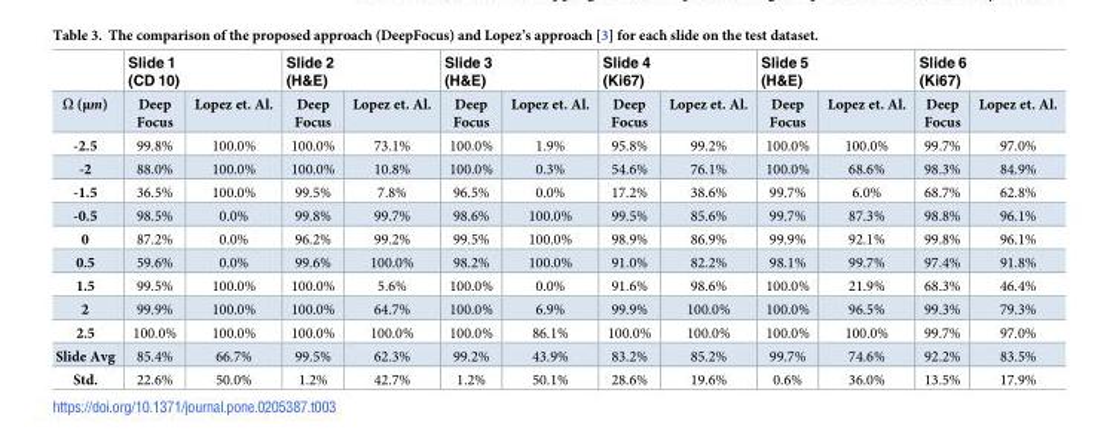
<table><thead><tr><td rowspan="2">Ω (μm)</td><td colspan="2">Slide 1 (CD 10)</td><td colspan="2">Slide 2 (H&amp;E)</td><td colspan="2">Slide 3 (H&amp;E)</td><td colspan="2">Slide 4 (Ki67)</td><td colspan="2">Slide 5 (H&amp;E)</td><td colspan="2">Slide 6 (Ki67)</td></tr><tr><td>Deep Focus</td><td>Lopez et. Al.</td><td>Deep Focus</td><td>Lopez et. Al.</td><td>Deep Focus</td><td>Lopez et. Al.</td><td>Deep Focus</td><td>Lopez et. Al.</td><td>Deep Focus</td><td>Lopez et. Al.</td><td>Deep Focus</td><td>Lopez et. Al.</td></tr></thead><tbody><tr><td>-2.5</td><td>99.8%</td><td>100.0%</td><td>100.0%</td><td>73.1%</td><td>100.0%</td><td>1.9%</td><td>95.8%</td><td>99.2%</td><td>100.0%</td><td>100.0%</td><td>99.7%</td><td>97.0%</td></tr><tr><td>-2</td><td>88.0%</td><td>100.0%</td><td>100.0%</td><td>10.8%</td><td>100.0%</td><td>0.3%</td><td>54.6%</td><td>76.1%</td><td>100.0%</td><td>68.6%</td><td>98.3%</td><td>84.9%</td></tr><tr><td>-1.5</td><td>36.5%</td><td>100.0%</td><td>99.5%</td><td>7.8%</td><td>96.5%</td><td>0.0%</td><td>17.2%</td><td>38.6%</td><td>99.7%</td><td>6.0%</td><td>68.7%</td><td>62.8%</td></tr><tr><td>-0.5</td><td>98.5%</td><td>0.0%</td><td>99.8%</td><td>99.7%</td><td>98.6%</td><td>100.0%</td><td>99.5%</td><td>85.6%</td><td>99.7%</td><td>87.3%</td><td>98.8%</td><td>96.1%</td></tr><tr><td>0</td><td>87.2%</td><td>0.0%</td><td>96.2%</td><td>99.2%</td><td>99.5%</td><td>100.0%</td><td>98.9%</td><td>86.9%</td><td>99.9%</td><td>92.1%</td><td>99.8%</td><td>96.1%</td></tr><tr><td>0.5</td><td>59.6%</td><td>0.0%</td><td>99.6%</td><td>100.0%</td><td>98.2%</td><td>100.0%</td><td>91.0%</td><td>82.2%</td><td>98.1%</td><td>99.7%</td><td>97.4%</td><td>91.8%</td></tr><tr><td>1.5</td><td>99.5%</td><td>100.0%</td><td>100.0%</td><td>5.6%</td><td>100.0%</td><td>0.0%</td><td>91.6%</td><td>98.6%</td><td>100.0%</td><td>21.9%</td><td>68.3%</td><td>46.4%</td></tr><tr><td>2</td><td>99.9%</td><td>100.0%</td><td>100.0%</td><td>64.7%</td><td>100.0%</td><td>6.9%</td><td>99.9%</td><td>100.0%</td><td>100.0%</td><td>96.5%</td><td>99.3%</td><td>79.3%</td></tr><tr><td>2.5</td><td>100.0%</td><td>100.0%</td><td>100.0%</td><td>100.0%</td><td>100.0%</td><td>86.1%</td><td>100.0%</td><td>100.0%</td><td>100.0%</td><td>100.0%</td><td>99.7%</td><td>97.0%</td></tr><tr><td>Slide Avg</td><td>85.4%</td><td>66.7%</td><td>99.5%</td><td>62.3%</td><td>99.2%</td><td>43.9%</td><td>83.2%</td><td>85.2%</td><td>99.7%</td><td>74.6%</td><td>92.2%</td><td>83.5%</td></tr><tr><td>Std.</td><td>22.6%</td><td>50.0%</td><td>1.2%</td><td>42.7%</td><td>1.2%</td><td>50.1%</td><td>28.6%</td><td>19.6%</td><td>0.6%</td><td>36.0%</td><td>13.5%</td><td>17.9%</td></tr></tbody></table>